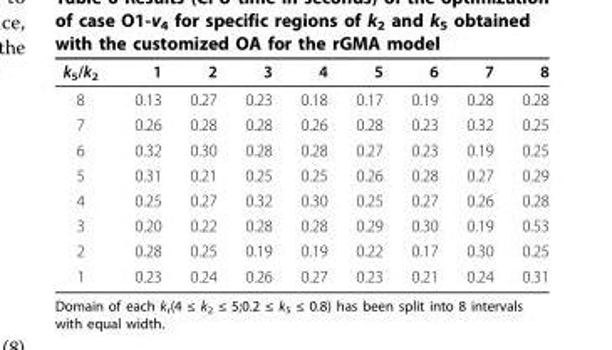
<table><thead><tr><td>k<sub>5</sub>/k<sub>2</sub></td><td>1</td><td>2</td><td>3</td><td>4</td><td>5</td><td>6</td><td>7</td><td>8</td></tr></thead><tbody><tr><td>8</td><td>0.13</td><td>0.27</td><td>0.23</td><td>0.18</td><td>0.17</td><td>0.19</td><td>0.28</td><td>0.28</td></tr><tr><td>7</td><td>0.26</td><td>0.28</td><td>0.28</td><td>0.26</td><td>0.28</td><td>0.23</td><td>0.32</td><td>0.25</td></tr><tr><td>6</td><td>0.32</td><td>0.30</td><td>0.28</td><td>0.28</td><td>0.27</td><td>0.23</td><td>0.19</td><td>0.25</td></tr><tr><td>5</td><td>0.31</td><td>0.21</td><td>0.25</td><td>0.25</td><td>0.26</td><td>0.28</td><td>0.27</td><td>0.29</td></tr><tr><td>4</td><td>0.25</td><td>0.27</td><td>0.32</td><td>0.30</td><td>0.25</td><td>0.27</td><td>0.26</td><td>0.28</td></tr><tr><td>3</td><td>0.20</td><td>0.22</td><td>0.28</td><td>0.28</td><td>0.29</td><td>0.30</td><td>0.19</td><td>0.53</td></tr><tr><td>2</td><td>0.28</td><td>0.25</td><td>0.19</td><td>0.19</td><td>0.22</td><td>0.17</td><td>0.30</td><td>0.25</td></tr><tr><td>1</td><td>0.23</td><td>0.24</td><td>0.26</td><td>0.27</td><td>0.23</td><td>0.21</td><td>0.24</td><td>0.31</td></tr></tbody></table>